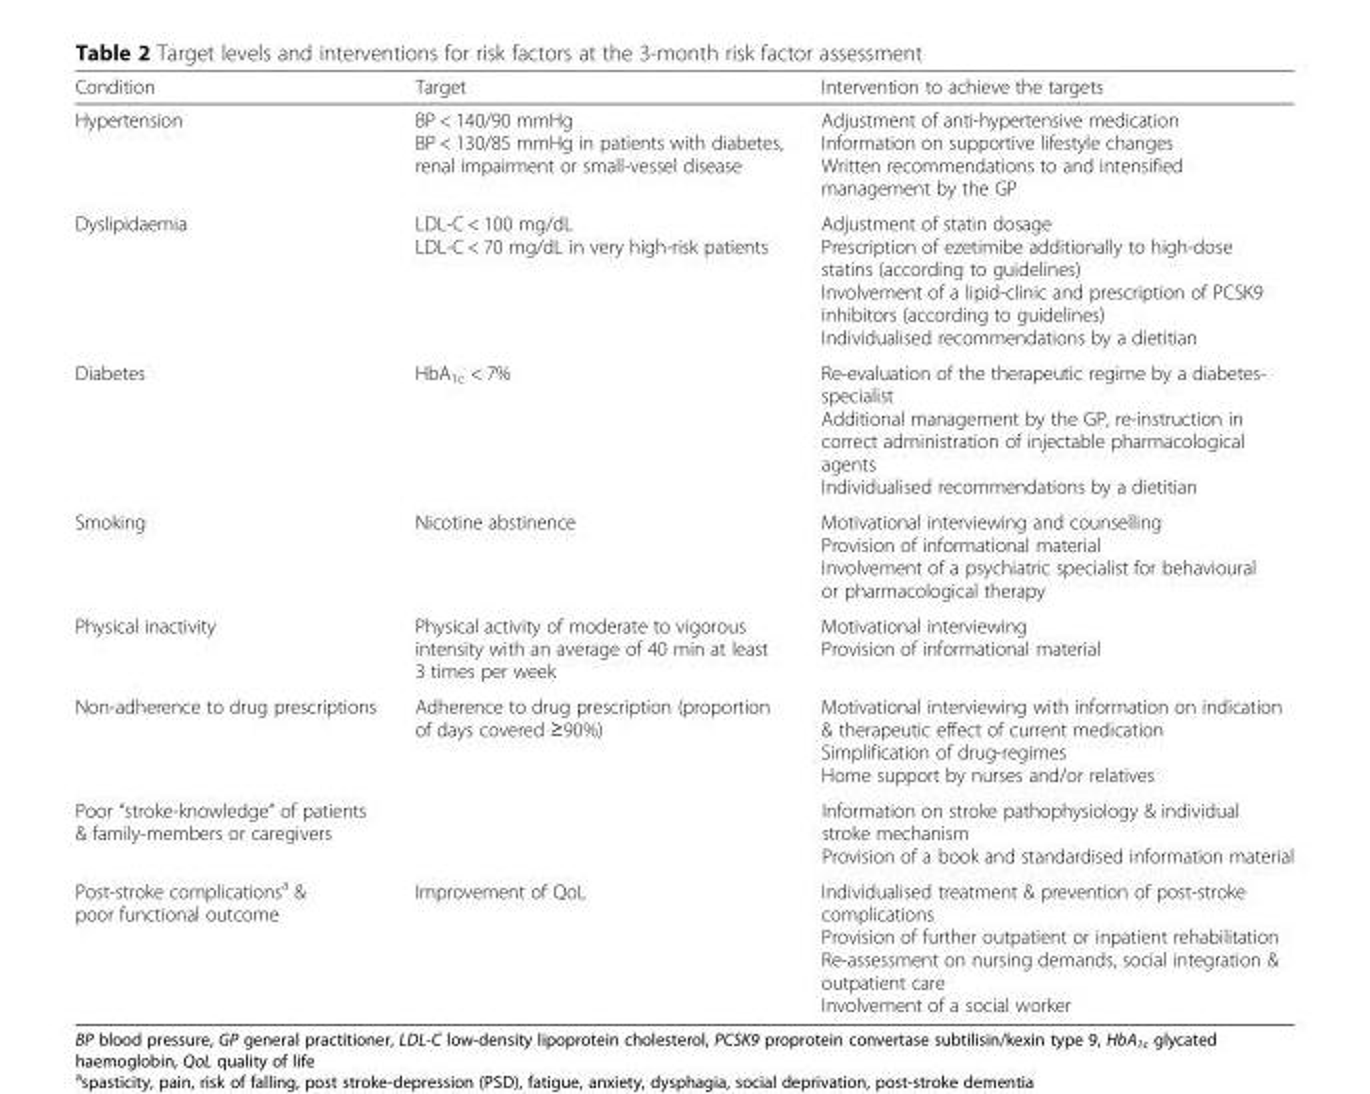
<table><thead><tr><td>Condition</td><td>Target</td><td>Intervention to achieve the targets</td></tr></thead><tbody><tr><td>Hypertension</td><td>BP &lt; 140/90 mmHg BP &lt; 130/85 mmHg in patients with diabetes, renal impairment or small-vessel disease</td><td>Adjustment of anti-hypertensive medication Information on supportive lifestyle changes Written recommendations to and intensified management by the GP</td></tr><tr><td>Dyslipidaemia</td><td>LDL-C &lt; 100 mg/dL LDL-C &lt; 70 mg/dL in very high-risk patients</td><td>Adjustment of statin dosage Prescription of ezetimibe additionally to high-dose statins (according to guidelines) Involvement of a lipid-clinic and prescription of PCSK9 inhibitors (according to guidelines) Individualised recommendations by a dietitian</td></tr><tr><td>Diabetes</td><td>HbA<sub>1c</sub> &lt; 7%</td><td>Re-evaluation of the therapeutic regime by a diabetes- specialist Additional management by the GP, re-instruction in correct administration of injectable pharmacological agents Individualised recommendations by a dietitian</td></tr><tr><td>Smoking</td><td>Nicotine abstinence</td><td>Motivational interviewing and counselling Provision of informational material Involvement of a psychiatric specialist for behavioural or pharmacological therapy</td></tr><tr><td>Physical inactivity</td><td>Physical activity of moderate to vigorous intensity with an average of 40 min at least 3 times per week</td><td>Motivational interviewing Provision of informational material</td></tr><tr><td>Non-adherence to drug prescriptions</td><td>Adherence to drug prescription (proportion of days covered ≥90%)</td><td>Motivational interviewing with information on indication &amp; therapeutic effect of current medication Simplification of drug-regimes Home support by nurses and/or relatives</td></tr><tr><td>Poor “stroke-knowledge” of patients &amp; family-members or caregivers</td><td></td><td>Information on stroke pathophysiology &amp; individual stroke mechanism Provision of a book and standardised information material</td></tr><tr><td>Post-stroke complications<sup>a</sup> &amp; poor functional outcome</td><td>Improvement of QoL</td><td>Individualised treatment &amp; prevention of post-stroke complications Provision of further outpatient or inpatient rehabilitation Re-assessment on nursing demands, social integration &amp; outpatient care Involvement of a social worker</td></tr></tbody></table>